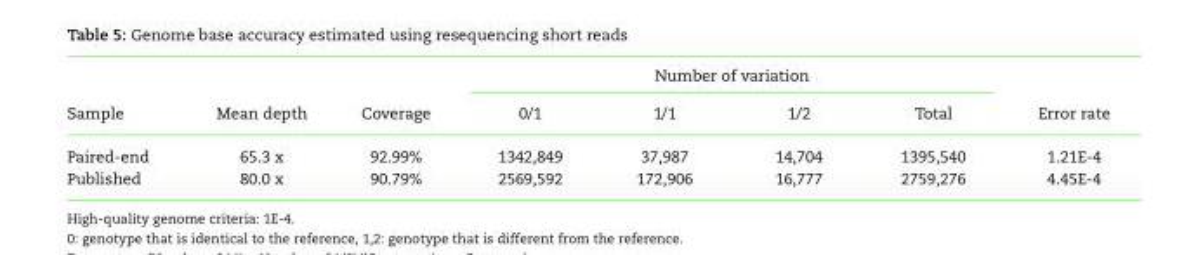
<table><thead><tr><td rowspan="2">Sample</td><td rowspan="2">Mean depth</td><td rowspan="2">Coverage</td><td colspan="4">Number of variation</td><td rowspan="2">Error rate</td></tr><tr><td>0/1</td><td>1/1</td><td>1/2</td><td>Total</td></tr></thead><tbody><tr><td>Paired-end</td><td>65.3 x</td><td>92.99%</td><td>1342,849</td><td>37,987</td><td>14,704</td><td>1395,540</td><td>1.21E-4</td></tr><tr><td>Published</td><td>80.0 x</td><td>90.79%</td><td>2569,592</td><td>172,906</td><td>16,777</td><td>2759,276</td><td>4.45E-4</td></tr></tbody></table>